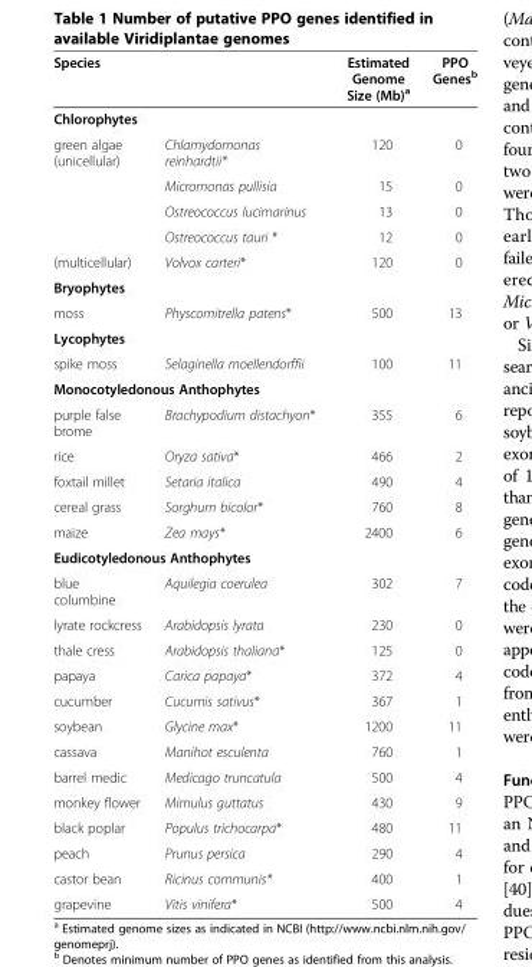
<table><thead><tr><td colspan="2">Species</td><td>Estimated Genome Size (Mb)<sup>a</sup></td><td>PPO Genes<sup>b</sup></td></tr><tr><td colspan="4">Chlorophytes</td></tr><tr><td>green algae (unicellular)</td><td>Chlamydomonas reinhardtii*</td><td>120</td><td>0</td></tr></thead><tbody><tr><td></td><td>Micromonas pullisia</td><td>15</td><td>0</td></tr><tr><td></td><td>Ostreococcus lucimarinus</td><td>13</td><td>0</td></tr><tr><td></td><td>Ostreococcus tauri *</td><td>12</td><td>0</td></tr><tr><td>(multicellular)</td><td>Volvox carteri*</td><td>120</td><td>0</td></tr><tr><td colspan="4">Bryophytes</td></tr><tr><td>moss</td><td>Physcomitrella patens*</td><td>500</td><td>13</td></tr><tr><td colspan="4">Lycophytes</td></tr><tr><td>spike moss</td><td>Selaginella moellendorffii</td><td>100</td><td>11</td></tr><tr><td colspan="4">Monocotyledonous Anthophytes</td></tr><tr><td>purple false brome</td><td>Brachypodium distachyon*</td><td>355</td><td>6</td></tr><tr><td>rice</td><td>Oryza sativa*</td><td>466</td><td>2</td></tr><tr><td>foxtail millet</td><td>Setaria italica</td><td>490</td><td>4</td></tr><tr><td>cereal grass</td><td>Sorghum bicolor*</td><td>760</td><td>8</td></tr><tr><td>maize</td><td>Zea mays*</td><td>2400</td><td>6</td></tr><tr><td colspan="4">Eudicotyledonous Anthophytes</td></tr><tr><td>blue columbine</td><td>Aquilegia coerulea</td><td>302</td><td>7</td></tr><tr><td>lyrate rockcress</td><td>Arabidopsis lyrata</td><td>230</td><td>0</td></tr><tr><td>thale cress</td><td>Arabidopsis thaliana*</td><td>125</td><td>0</td></tr><tr><td>papaya</td><td>Carica papaya*</td><td>372</td><td>4</td></tr><tr><td>cucumber</td><td>Cucumis sativus*</td><td>367</td><td>1</td></tr><tr><td>soybean</td><td>Glycine max*</td><td>1200</td><td>11</td></tr><tr><td>cassava</td><td>Manihot esculenta</td><td>760</td><td>1</td></tr><tr><td>barrel medic</td><td>Medicago truncatula</td><td>500</td><td>4</td></tr><tr><td>monkey flower</td><td>Mimulus guttatus</td><td>430</td><td>9</td></tr><tr><td>black poplar</td><td>Populus trichocarpa*</td><td>480</td><td>11</td></tr><tr><td>peach</td><td>Prunus persica</td><td>290</td><td>4</td></tr><tr><td>castor bean</td><td>Ricinus communis*</td><td>400</td><td>1</td></tr><tr><td>grapevine</td><td>Vitis vinifera*</td><td>500</td><td>4</td></tr></tbody></table>